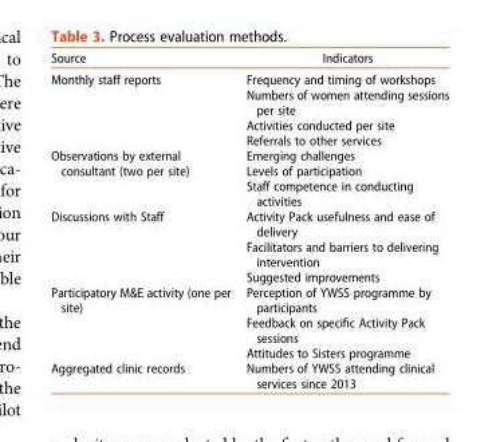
<table><thead><tr><td>Source</td><td>Indicators</td></tr></thead><tbody><tr><td>Monthly staff reports</td><td>Frequency and timing of workshops Numbers of women attending sessions per site Activities conducted per site Referrals to other services</td></tr><tr><td>Observations by external consultant (two per site)</td><td>Emerging challenges Levels of participation Staff competence in conducting activities</td></tr><tr><td>Discussions with Staff</td><td>Activity Pack usefulness and ease of delivery Facilitators and barriers to delivering intervention Suggested improvements</td></tr><tr><td>Participatory M&amp;E activity (one per site)</td><td>Perception of YWSS programme by participants Feedback on specific Activity Pack sessions Attitudes to Sisters programme</td></tr><tr><td>Aggregated clinic records</td><td>Numbers of YWSS attending clinical services since 2013</td></tr></tbody></table>